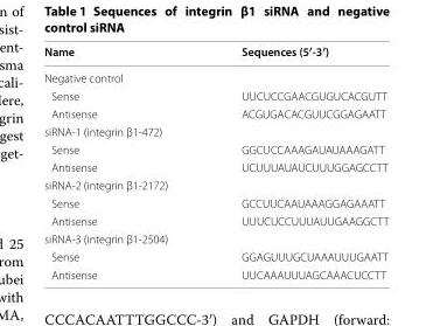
<table><thead><tr><td>Name</td><td>Sequences (5′‑3′)</td></tr></thead><tbody><tr><td colspan="2">Negative control</td></tr><tr><td>Sense</td><td>UUC UCC GAA CGU GUC ACG UTT</td></tr><tr><td>Antisense</td><td>ACG UGA CAC GUU CGG AGA ATT</td></tr><tr><td colspan="2">siRNA-1 (integrin β1-472)</td></tr><tr><td>Sense</td><td>GGC UCC AAA GAU AUA AAG ATT</td></tr><tr><td>Antisense</td><td>UCU UUA UAU CUU UGG AGC CTT</td></tr><tr><td colspan="2">siRNA-2 (integrin β1-2172)</td></tr><tr><td>Sense</td><td>GCC UUC AAU AAA GGA GAA ATT</td></tr><tr><td>Antisense</td><td>UUU CUC CUU UAU UGA AGG CTT</td></tr><tr><td colspan="2">siRNA-3 (integrin β1-2504)</td></tr><tr><td>Sense</td><td>GGA GUU UGC UAA AUU UGA ATT</td></tr><tr><td>Antisense</td><td>UUC AAA UUU AGC AAA CUC CTT</td></tr></tbody></table>